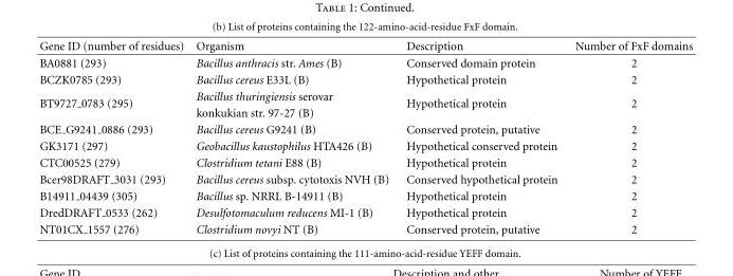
<table><tbody><tr><td>Gene ID (number of residues)</td><td>Organism</td><td>Description</td><td>Number of FxF domains</td></tr><tr><td>BA0881 (293)</td><td>Bacillus anthracis str. Ames (B)</td><td>Conserved domain protein</td><td>2</td></tr><tr><td>BCZK0785 (293)</td><td>Bacillus cereus E33L (B)</td><td>Hypothetical protein</td><td>2</td></tr><tr><td>BT9727 0783 (295)</td><td>Bacillus thuringiensis serovar konkukian str. 97-27 (B)</td><td>Hypothetical protein</td><td>2</td></tr><tr><td>BCE <sub>G9241</sub> 0886 (293)</td><td>Bacillus cereus G9241 (B)</td><td>Conserved protein, putative</td><td>2</td></tr><tr><td>GK3171 (297)</td><td>Geobacillus kaustophilus HTA426 (B)</td><td>Hypothetical conserved protein</td><td>2</td></tr><tr><td>CTC00525 (279)</td><td>Clostridium tetani E88 (B)</td><td>Hypothetical protein</td><td>2</td></tr><tr><td>Bcer98DRAFT 3031 (293)</td><td>Bacillus cereus subsp. cytotoxis NVH (B)</td><td>Conserved hypothetical protein</td><td>2</td></tr><tr><td>B14911 04439 (305)</td><td>Bacillus sp. NRRL B-14911 (B)</td><td>Hypothetical protein</td><td>2</td></tr><tr><td>DredDRAFT 0533 (262)</td><td>Desulfotomaculum reducens MI-1 (B)</td><td>Hypothetical protein</td><td>2</td></tr><tr><td>NT01CX 1557 (276)</td><td>Clostridium novyi NT (B)</td><td>Conserved protein, putative</td><td>2</td></tr></tbody></table>